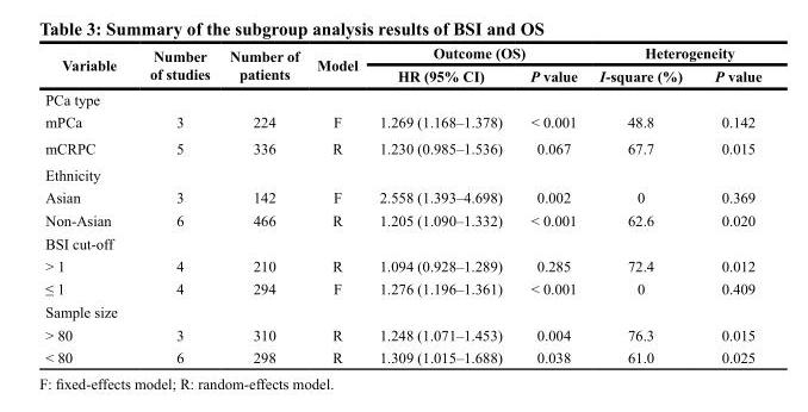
<table><thead><tr><td rowspan="2">Variable</td><td rowspan="2">Number of studies</td><td rowspan="2">Number of patients</td><td rowspan="2">Model</td><td colspan="2">Outcome (OS)</td><td colspan="2">Heterogeneity</td></tr><tr><td>HR (95% CI)</td><td>P value</td><td>I-square (%)</td><td>P value</td></tr></thead><tbody><tr><td colspan="8">PCa type</td></tr><tr><td>mPCa</td><td>3</td><td>224</td><td>F</td><td>1.269 (1.168–1.378)</td><td>&lt; 0.001</td><td>48.8</td><td>0.142</td></tr><tr><td>mCRPC</td><td>5</td><td>336</td><td>R</td><td>1.230 (0.985–1.536)</td><td>0.067</td><td>67.7</td><td>0.015</td></tr><tr><td colspan="8">Ethnicity</td></tr><tr><td>Asian</td><td>3</td><td>142</td><td>F</td><td>2.558 (1.393–4.698)</td><td>0.002</td><td>0</td><td>0.369</td></tr><tr><td>Non-Asian</td><td>6</td><td>466</td><td>R</td><td>1.205 (1.090–1.332)</td><td>&lt; 0.001</td><td>62.6</td><td>0.020</td></tr><tr><td colspan="8">BSI cut-off</td></tr><tr><td>&gt; 1</td><td>4</td><td>210</td><td>R</td><td>1.094 (0.928–1.289)</td><td>0.285</td><td>72.4</td><td>0.012</td></tr><tr><td>≤ 1</td><td>4</td><td>294</td><td>F</td><td>1.276 (1.196–1.361)</td><td>&lt; 0.001</td><td>0</td><td>0.409</td></tr><tr><td colspan="8">Sample size</td></tr><tr><td>&gt; 80</td><td>3</td><td>310</td><td>R</td><td>1.248 (1.071–1.453)</td><td>0.004</td><td>76.3</td><td>0.015</td></tr><tr><td>&lt; 80</td><td>6</td><td>298</td><td>R</td><td>1.309 (1.015–1.688)</td><td>0.038</td><td>61.0</td><td>0.025</td></tr></tbody></table>